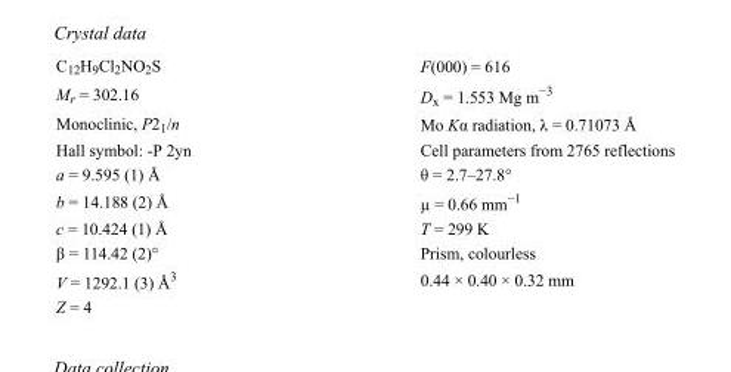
<table><tbody><tr><td>C<sub>12</sub>H<sub>9</sub>Cl<sub>2</sub>NO<sub>2</sub>S</td><td>F(000) = 616</td></tr><tr><td>M<sub>r</sub> = 302.16</td><td>D<sub>x</sub> = 1.553 Mg m<sup>−3</sup></td></tr><tr><td>Monoclinic, P2<sub>1</sub>/n</td><td>Mo Kα radiation, λ = 0.71073 Å</td></tr><tr><td>Hall symbol: -P 2yn</td><td>Cell parameters from 2765 reflections</td></tr><tr><td>a = 9.595 (1) Å</td><td>θ = 2.7–27.8°</td></tr><tr><td>b = 14.188 (2) Å</td><td>µ = 0.66 mm<sup>−1</sup></td></tr><tr><td>c = 10.424 (1) Å</td><td>T = 299 K</td></tr><tr><td>β = 114.42 (2)°</td><td>Prism, colourless</td></tr><tr><td>V = 1292.1 (3) Å<sup>3</sup></td><td>0.44 × 0.40 × 0.32 mm</td></tr><tr><td>Z = 4</td><td></td></tr></tbody></table>